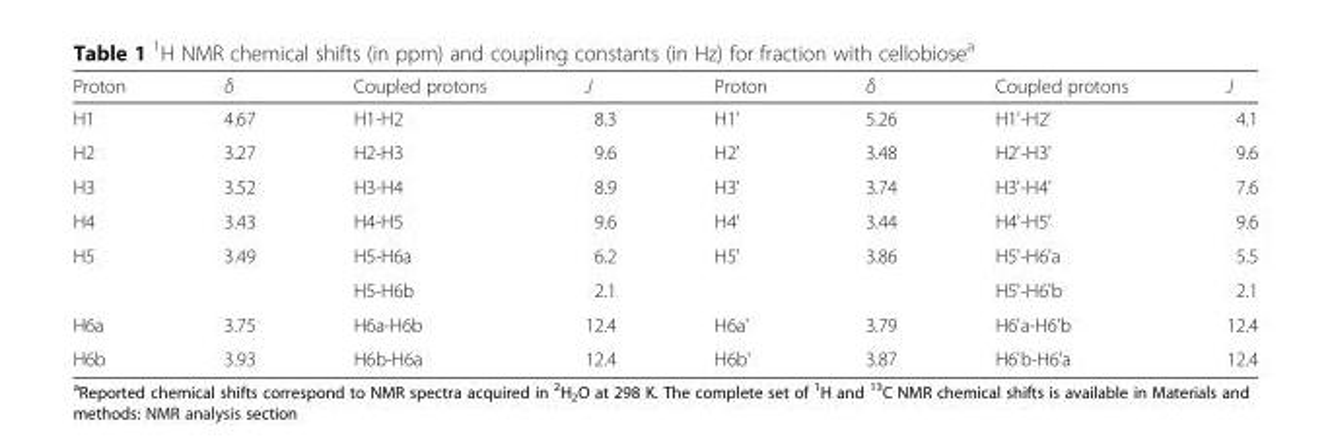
<table><thead><tr><td>Proton</td><td>δ</td><td>Coupled protons</td><td>J</td><td>Proton</td><td>δ</td><td>Coupled protons</td><td>J</td></tr></thead><tbody><tr><td>H1</td><td>4.67</td><td>H1-H2</td><td>8.3</td><td>H1&#x27;</td><td>5.26</td><td>H1&#x27;-H2&#x27;</td><td>4.1</td></tr><tr><td>H2</td><td>3.27</td><td>H2-H3</td><td>9.6</td><td>H2&#x27;</td><td>3.48</td><td>H2&#x27;-H3&#x27;</td><td>9.6</td></tr><tr><td>H3</td><td>3.52</td><td>H3-H4</td><td>8.9</td><td>H3&#x27;</td><td>3.74</td><td>H3&#x27;-H4&#x27;</td><td>7.6</td></tr><tr><td>H4</td><td>3.43</td><td>H4-H5</td><td>9.6</td><td>H4&#x27;</td><td>3.44</td><td>H4&#x27;-H5&#x27;</td><td>9.6</td></tr><tr><td rowspan="2">H5</td><td>3.49</td><td>H5-H6a</td><td>6.2</td><td>H5&#x27;</td><td>3.86</td><td>H5&#x27;-H6&#x27;a</td><td>5.5</td></tr><tr><td></td><td>H5-H6b</td><td>2.1</td><td></td><td></td><td>H5&#x27;-H6&#x27;b</td><td>2.1</td></tr><tr><td>H6a</td><td>3.75</td><td>H6a-H6b</td><td>12.4</td><td>H6a&#x27;</td><td>3.79</td><td>H6&#x27;a-H6&#x27;b</td><td>12.4</td></tr><tr><td>H6b</td><td>3.93</td><td>H6b-H6a</td><td>12.4</td><td>H6b&#x27;</td><td>3.87</td><td>H6&#x27;b-H6&#x27;a</td><td>12.4</td></tr></tbody></table>